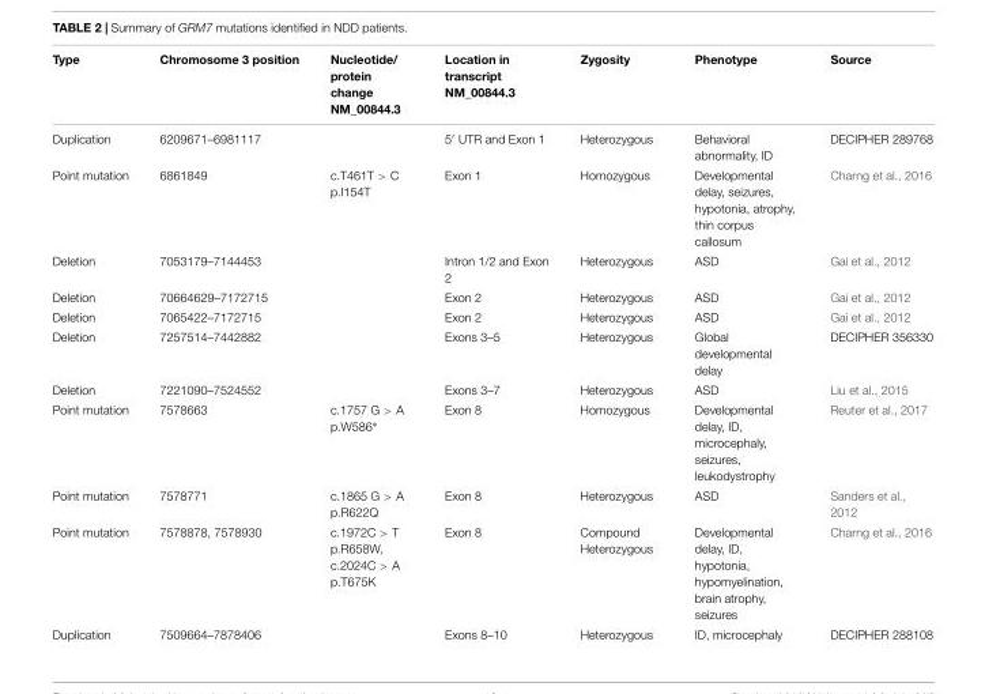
<table><thead><tr><td>Type</td><td>Chromosome 3 position</td><td>Nucleotide/ protein change NM_00844.3</td><td>Location in transcript NM_00844.3</td><td>Zygosity</td><td>Phenotype</td><td>Source</td></tr></thead><tbody><tr><td>Duplication</td><td>6209671–6981117</td><td></td><td>5′ UTR and Exon 1</td><td>Heterozygous</td><td>Behavioral abnormality, ID</td><td>DECIPHER 289768</td></tr><tr><td>Point mutation</td><td>6861849</td><td>c.T461T &gt; C p.I154T</td><td>Exon 1</td><td>Homozygous</td><td>Developmental delay, seizures, hypotonia, atrophy, thin corpus callosum</td><td>Charng et al., 2016</td></tr><tr><td>Deletion</td><td>7053179–7144453</td><td></td><td>Intron 1/2 and Exon 2</td><td>Heterozygous</td><td>ASD</td><td>Gai et al., 2012</td></tr><tr><td>Deletion</td><td>70664629–7172715</td><td></td><td>Exon 2</td><td>Heterozygous</td><td>ASD</td><td>Gai et al., 2012</td></tr><tr><td>Deletion</td><td>7065422–7172715</td><td></td><td>Exon 2</td><td>Heterozygous</td><td>ASD</td><td>Gai et al., 2012</td></tr><tr><td>Deletion</td><td>7257514–7442882</td><td></td><td>Exons 3–5</td><td>Heterozygous</td><td>Global developmental delay</td><td>DECIPHER 356330</td></tr><tr><td>Deletion</td><td>7221090–7524552</td><td></td><td>Exons 3–7</td><td>Heterozygous</td><td>ASD</td><td>Liu et al., 2015</td></tr><tr><td>Point mutation</td><td>7578663</td><td>c.1757 G &gt; A p.W586∗</td><td>Exon 8</td><td>Homozygous</td><td>Developmental delay, ID, microcephaly, seizures, leukodystrophy</td><td>Reuter et al., 2017</td></tr><tr><td>Point mutation</td><td>7578771</td><td>c.1865 G &gt; A p.R622Q</td><td>Exon 8</td><td>Heterozygous</td><td>ASD</td><td>Sanders et al., 2012</td></tr><tr><td>Point mutation</td><td>7578878, 7578930</td><td>c.1972C &gt; T p.R658W, c.2024C &gt; A p.T675K</td><td>Exon 8</td><td>Compound Heterozygous</td><td>Developmental delay, ID, hypotonia, hypomyelination, brain atrophy, seizures</td><td>Charng et al., 2016</td></tr><tr><td>Duplication</td><td>7509664–7878406</td><td></td><td>Exons 8–10</td><td>Heterozygous</td><td>ID, microcephaly</td><td>DECIPHER 288108</td></tr></tbody></table>